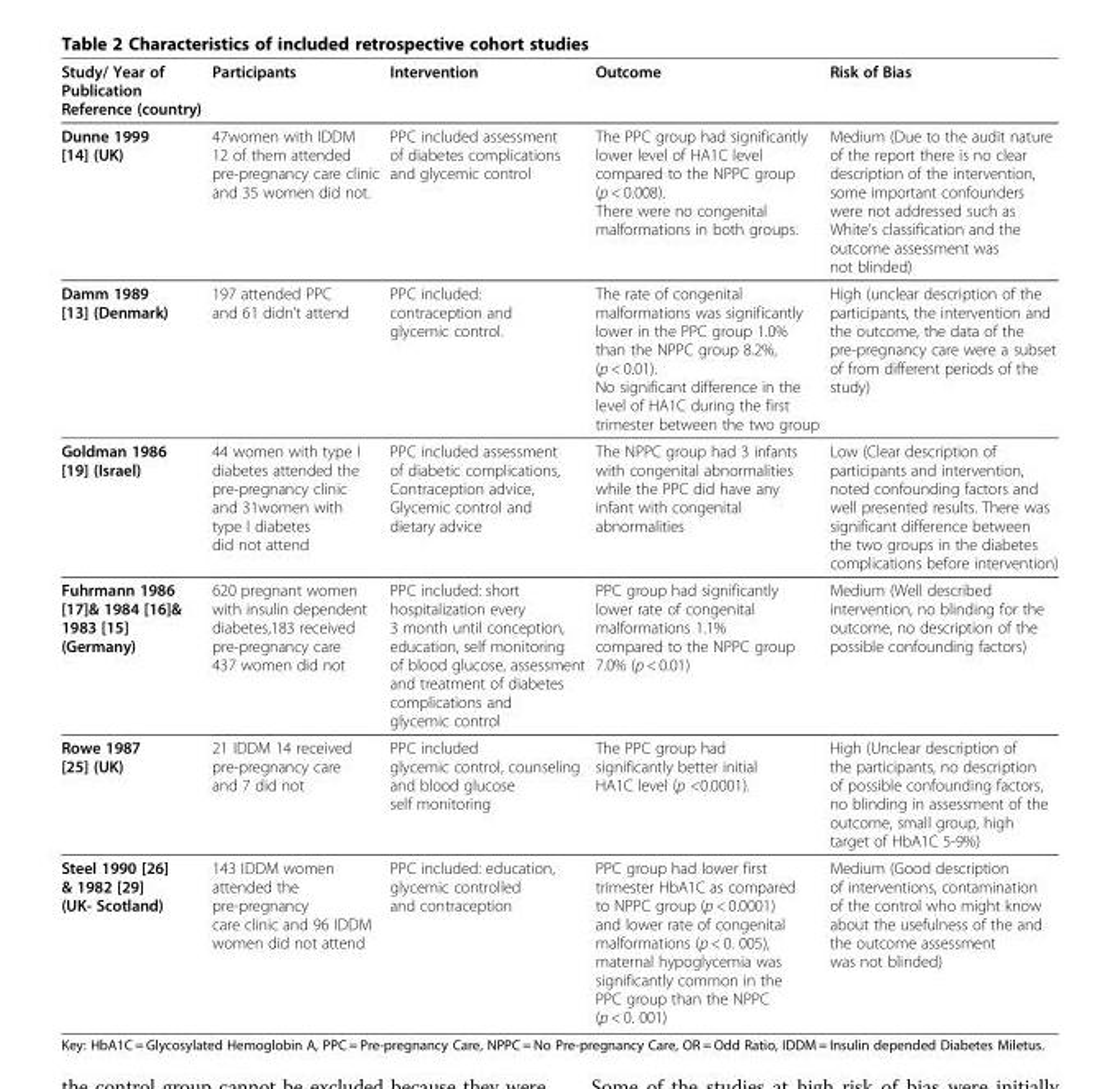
<table><thead><tr><td>Study/ Year of Publication Reference (country)</td><td>Participants</td><td>Intervention</td><td>Outcome</td><td>Risk of Bias</td></tr></thead><tbody><tr><td rowspan="2">Dunne 1999 [14] (UK)</td><td rowspan="2">47women with IDDM 12 of them attended pre-pregnancy care clinic and 35 women did not.</td><td rowspan="2">PPC included assessment of diabetes complications and glycemic control</td><td>The PPC group had significantly lower level of HA1C level compared to the NPPC group (p &lt; 0.008).</td><td rowspan="2">Medium (Due to the audit nature of the report there is no clear description of the intervention, some important confounders were not addressed such as White’s classification and the outcome assessment was not blinded)</td></tr><tr><td>There were no congenital malformations in both groups.</td></tr><tr><td>Damm 1989 [13] (Denmark)</td><td>197 attended PPC and 61 didn’t attend</td><td>PPC included: contraception and glycemic control.</td><td>The rate of congenital malformations was significantly lower in the PPC group 1.0% than the NPPC group 8.2%, (p &lt; 0.01). No significant difference in the level of HA1C during the first trimester between the two group</td><td>High (unclear description of the participants, the intervention and the outcome, the data of the pre-pregnancy care were a subset of from different periods of the study)</td></tr><tr><td>Goldman 1986 [19] (Israel)</td><td>44 women with type I diabetes attended the pre-pregnancy clinic and 31women with type I diabetes did not attend</td><td>PPC included assessment of diabetic complications, Contraception advice, Glycemic control and dietary advice</td><td>The NPPC group had 3 infants with congenital abnormalities while the PPC did have any infant with congenital abnormalities</td><td>Low (Clear description of participants and intervention, noted confounding factors and well presented results. There was significant difference between the two groups in the diabetes complications before intervention)</td></tr><tr><td>Fuhrmann 1986 [17]&amp; 1984 [16]&amp; 1983 [15] (Germany)</td><td>620 pregnant women with insulin dependent diabetes,183 received pre-pregnancy care 437 women did not</td><td>PPC included: short hospitalization every 3 month until conception, education, self monitoring of blood glucose, assessment and treatment of diabetes complications and glycemic control</td><td>PPC group had significantly lower rate of congenital malformations 1.1% compared to the NPPC group 7.0% (p &lt; 0.01)</td><td>Medium (Well described intervention, no blinding for the outcome, no description of the possible confounding factors)</td></tr><tr><td rowspan="2">Rowe 1987 [25] (UK)</td><td rowspan="2">21 IDDM 14 received pre-pregnancy care and 7 did not</td><td>PPC included</td><td rowspan="2">The PPC group had significantly better initial HA1C level (p &lt;0.0001).</td><td rowspan="2">High (Unclear description of the participants, no description of possible confounding factors, no blinding in assessment of the outcome, small group, high target of HbA1C 5-9%)</td></tr><tr><td>glycemic control, counseling and blood glucose self monitoring</td></tr><tr><td>Steel 1990 [26] &amp; 1982 [29] (UK- Scotland)</td><td>143 IDDM women attended the pre-pregnancy care clinic and 96 IDDM women did not attend</td><td>PPC included: education, glycemic controlled and contraception</td><td>PPC group had lower first trimester HbA1C as compared to NPPC group (p &lt; 0.0001) and lower rate of congenital malformations (p &lt; 0. 005), maternal hypoglycemia was significantly common in the PPC group than the NPPC (p &lt; 0. 001)</td><td>Medium (Good description of interventions, contamination of the control who might know about the usefulness of the and the outcome assessment was not blinded)</td></tr></tbody></table>